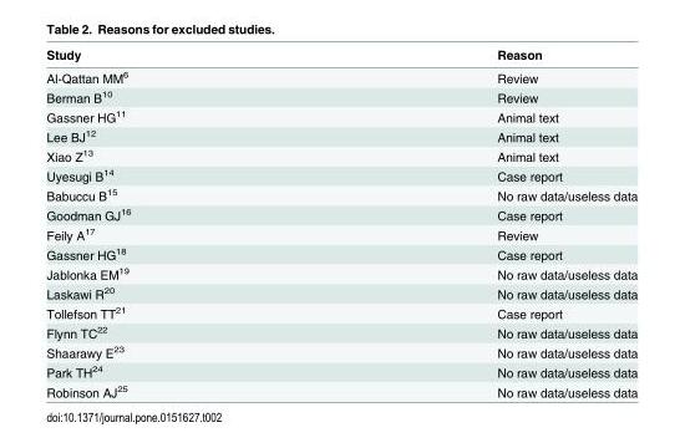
<table><thead><tr><td>Study</td><td>Reason</td></tr></thead><tbody><tr><td>Al-Qattan MM<sup>6</sup></td><td>Review</td></tr><tr><td>Berman B<sup>10</sup></td><td>Review</td></tr><tr><td>Gassner HG<sup>11</sup></td><td>Animal text</td></tr><tr><td>Lee BJ<sup>12</sup></td><td>Animal text</td></tr><tr><td>Xiao Z<sup>13</sup></td><td>Animal text</td></tr><tr><td>Uyesugi B<sup>14</sup></td><td>Case report</td></tr><tr><td>Babuccu B<sup>15</sup></td><td>No raw data/useless data</td></tr><tr><td>Goodman GJ<sup>16</sup></td><td>Case report</td></tr><tr><td>Feily A<sup>17</sup></td><td>Review</td></tr><tr><td>Gassner HG<sup>18</sup></td><td>Case report</td></tr><tr><td>Jablonka EM<sup>19</sup></td><td>No raw data/useless data</td></tr><tr><td>Laskawi R<sup>20</sup></td><td>No raw data/useless data</td></tr><tr><td>Tollefson TT<sup>21</sup></td><td>Case report</td></tr><tr><td>Flynn TC<sup>22</sup></td><td>No raw data/useless data</td></tr><tr><td>Shaarawy E<sup>23</sup></td><td>No raw data/useless data</td></tr><tr><td>Park TH<sup>24</sup></td><td>No raw data/useless data</td></tr><tr><td>Robinson AJ<sup>25</sup></td><td>No raw data/useless data</td></tr></tbody></table>